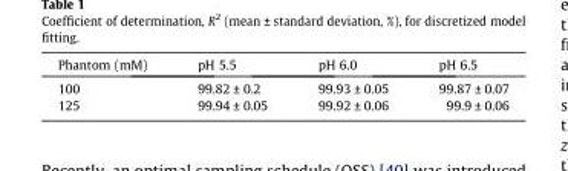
<table><thead><tr><td>Phantom (mM)</td><td>pH 5.5</td><td>pH 6.0</td><td>pH 6.5</td></tr></thead><tbody><tr><td>100</td><td>99.82 ± 0.2</td><td>99.93 ± 0.05</td><td>99.87 ± 0.07</td></tr><tr><td>125</td><td>99.94 ± 0.05</td><td>99.92 ± 0.06</td><td>99.9 ± 0.06</td></tr></tbody></table>